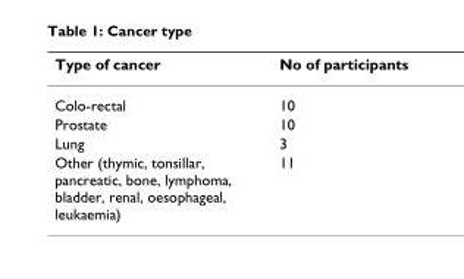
<table><thead><tr><td>Type of cancer</td><td>No of participants</td></tr></thead><tbody><tr><td>Colo-rectal</td><td>10</td></tr><tr><td>Prostate</td><td>10</td></tr><tr><td>Lung</td><td>3</td></tr><tr><td>Other (thymic, tonsillar, pancreatic, bone, lymphoma, bladder, renal, oesophageal, leukaemia)</td><td>11</td></tr></tbody></table>